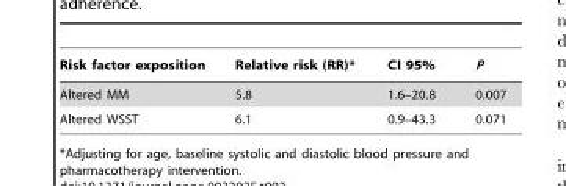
<table><thead><tr><td>Risk factor exposition</td><td>Relative risk (RR)*</td><td>CI 95%</td><td>P</td></tr></thead><tbody><tr><td>Altered MM</td><td>5.8</td><td>1.6–20.8</td><td>0.007</td></tr><tr><td>Altered WSST</td><td>6.1</td><td>0.9–43.3</td><td>0.071</td></tr></tbody></table>